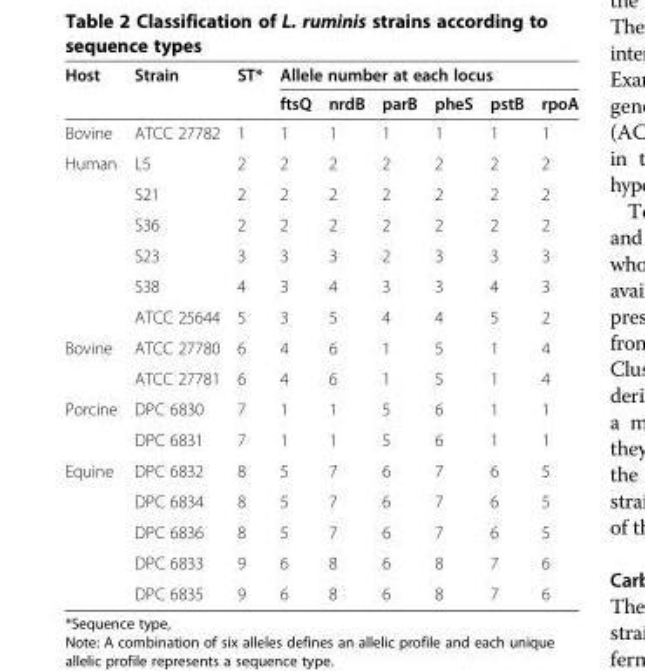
<table><thead><tr><td rowspan="2">Host</td><td rowspan="2">Strain</td><td rowspan="2">ST*</td><td colspan="6">Allele number at each locus</td></tr><tr><td>ftsQ</td><td>nrdB</td><td>parB</td><td>pheS</td><td>pstB</td><td>rpoA</td></tr></thead><tbody><tr><td>Bovine</td><td>ATCC 27782</td><td>1</td><td>1</td><td>1</td><td>1</td><td>1</td><td>1</td><td>1</td></tr><tr><td rowspan="6">Human</td><td>L5</td><td>2</td><td>2</td><td>2</td><td>2</td><td>2</td><td>2</td><td>2</td></tr><tr><td>S21</td><td>2</td><td>2</td><td>2</td><td>2</td><td>2</td><td>2</td><td>2</td></tr><tr><td>S36</td><td>2</td><td>2</td><td>2</td><td>2</td><td>2</td><td>2</td><td>2</td></tr><tr><td>S23</td><td>3</td><td>3</td><td>3</td><td>2</td><td>3</td><td>3</td><td>3</td></tr><tr><td>S38</td><td>4</td><td>3</td><td>4</td><td>3</td><td>3</td><td>4</td><td>3</td></tr><tr><td>ATCC 25644</td><td>5</td><td>3</td><td>5</td><td>4</td><td>4</td><td>5</td><td>2</td></tr><tr><td rowspan="2">Bovine</td><td>ATCC 27780</td><td>6</td><td>4</td><td>6</td><td>1</td><td>5</td><td>1</td><td>4</td></tr><tr><td>ATCC 27781</td><td>6</td><td>4</td><td>6</td><td>1</td><td>5</td><td>1</td><td>4</td></tr><tr><td rowspan="2">Porcine</td><td>DPC 6830</td><td>7</td><td>1</td><td>1</td><td>5</td><td>6</td><td>1</td><td>1</td></tr><tr><td>DPC 6831</td><td>7</td><td>1</td><td>1</td><td>5</td><td>6</td><td>1</td><td>1</td></tr><tr><td rowspan="5">Equine</td><td>DPC 6832</td><td>8</td><td>5</td><td>7</td><td>6</td><td>7</td><td>6</td><td>5</td></tr><tr><td>DPC 6834</td><td>8</td><td>5</td><td>7</td><td>6</td><td>7</td><td>6</td><td>5</td></tr><tr><td>DPC 6836</td><td>8</td><td>5</td><td>7</td><td>6</td><td>7</td><td>6</td><td>5</td></tr><tr><td>DPC 6833</td><td>9</td><td>6</td><td>8</td><td>6</td><td>8</td><td>7</td><td>6</td></tr><tr><td>DPC 6835</td><td>9</td><td>6</td><td>8</td><td>6</td><td>8</td><td>7</td><td>6</td></tr></tbody></table>